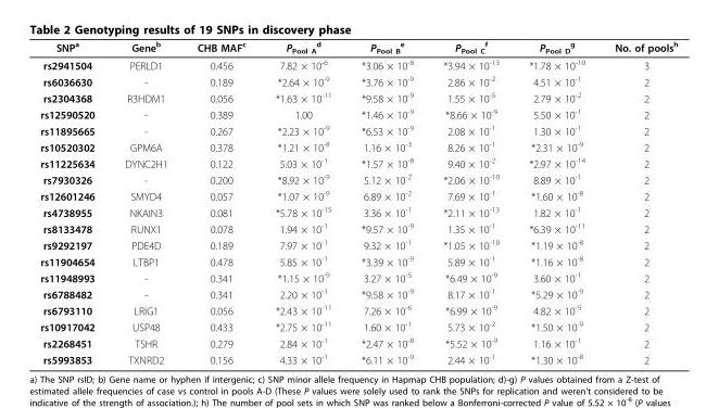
<table><thead><tr><td>SNP<sup>a</sup></td><td>Gene<sup>b</sup></td><td>CHB MAF<sup>c</sup></td><td>P<sub>Pool A</sub> <sup>d</sup></td><td>P<sub>Pool B</sub> <sup>e</sup></td><td>P<sub>Pool C</sub> <sup>f</sup></td><td>P<sub>Pool D</sub> <sup>g</sup></td><td>No. of pools<sup>h</sup></td></tr></thead><tbody><tr><td>rs2941504</td><td>PERLD1</td><td>0.456</td><td>7.82 × 10<sup>-6</sup></td><td>*3.06 × 10<sup>-8</sup></td><td>*3.94 × 10<sup>-13</sup></td><td>*1.78 × 10<sup>-10</sup></td><td>3</td></tr><tr><td>rs6036630</td><td>-</td><td>0.189</td><td>*2.64 × 10<sup>-9</sup></td><td>*3.76 × 10<sup>-9</sup></td><td>2.86 × 10<sup>-2</sup></td><td>4.51 × 10<sup>-1</sup></td><td>2</td></tr><tr><td>rs2304368</td><td>R3HDM1</td><td>0.056</td><td>*1.63 × 10<sup>-11</sup></td><td>*9.58 × 10<sup>-9</sup></td><td>1.55 × 10<sup>-5</sup></td><td>2.79 × 10<sup>-2</sup></td><td>2</td></tr><tr><td>rs12590520</td><td>-</td><td>0.389</td><td>1.00</td><td>*1.46 × 10<sup>-9</sup></td><td>*8.66 × 10<sup>-9</sup></td><td>5.50 × 10<sup>-1</sup></td><td>2</td></tr><tr><td>rs11895665</td><td>-</td><td>0.267</td><td>*2.23 × 10<sup>-9</sup></td><td>*6.53 × 10<sup>-9</sup></td><td>2.08 × 10<sup>-1</sup></td><td>1.30 × 10<sup>-1</sup></td><td>2</td></tr><tr><td>rs10520302</td><td>GPM6A</td><td>0.378</td><td>*1.21 × 10<sup>-8</sup></td><td>1.16 × 10<sup>-3</sup></td><td>8.26 × 10<sup>-1</sup></td><td>*2.31 × 10<sup>-9</sup></td><td>2</td></tr><tr><td>rs11225634</td><td>DYNC2H1</td><td>0.122</td><td>5.03 × 10<sup>-1</sup></td><td>*1.57 × 10<sup>-8</sup></td><td>9.40 × 10<sup>-2</sup></td><td>*2.97 × 10<sup>-14</sup></td><td>2</td></tr><tr><td>rs7930326</td><td>-</td><td>0.200</td><td>*8.92 × 10<sup>-9</sup></td><td>5.12 × 10<sup>-2</sup></td><td>*2.06 × 10<sup>-10</sup></td><td>8.89 × 10<sup>-1</sup></td><td>2</td></tr><tr><td>rs12601246</td><td>SMYD4</td><td>0.057</td><td>*1.07 × 10<sup>-9</sup></td><td>6.89 × 10<sup>-2</sup></td><td>7.69 × 10<sup>-1</sup></td><td>*1.60 × 10<sup>-8</sup></td><td>2</td></tr><tr><td>rs4738955</td><td>NKAIN3</td><td>0.081</td><td>*5.78 × 10<sup>-15</sup></td><td>3.36 × 10<sup>-1</sup></td><td>*2.11 × 10<sup>-13</sup></td><td>1.82 × 10<sup>-1</sup></td><td>2</td></tr><tr><td>rs8133478</td><td>RUNX1</td><td>0.078</td><td>1.94 × 10<sup>-1</sup></td><td>*9.57 × 10<sup>-9</sup></td><td>1.35 × 10<sup>-1</sup></td><td>*6.39 × 10<sup>-11</sup></td><td>2</td></tr><tr><td>rs9292197</td><td>PDE4D</td><td>0.189</td><td>7.97 × 10<sup>-1</sup></td><td>9.32 × 10<sup>-1</sup></td><td>*1.05 × 10<sup>-10</sup></td><td>*1.19 × 10<sup>-8</sup></td><td>2</td></tr><tr><td>rs11904654</td><td>LTBP1</td><td>0.478</td><td>5.85 × 10<sup>-1</sup></td><td>*3.39 × 10<sup>-9</sup></td><td>5.89 × 10<sup>-1</sup></td><td>*1.16 × 10<sup>-8</sup></td><td>2</td></tr><tr><td>rs11948993</td><td>-</td><td>0.341</td><td>*1.15 × 10<sup>-9</sup></td><td>3.27 × 10<sup>-5</sup></td><td>*6.49 × 10<sup>-9</sup></td><td>3.60 × 10<sup>-1</sup></td><td>2</td></tr><tr><td>rs6788482</td><td>-</td><td>0.341</td><td>2.20 × 10<sup>-1</sup></td><td>*9.58 × 10<sup>-9</sup></td><td>8.17 × 10<sup>-1</sup></td><td>*5.29 × 10<sup>-9</sup></td><td>2</td></tr><tr><td>rs6793110</td><td>LRIG1</td><td>0.056</td><td>*2.43 × 10<sup>-11</sup></td><td>7.26 × 10<sup>-6</sup></td><td>*6.99 × 10<sup>-9</sup></td><td>4.82 × 10<sup>-5</sup></td><td>2</td></tr><tr><td>rs10917042</td><td>USP48</td><td>0.433</td><td>*2.75 × 10<sup>-11</sup></td><td>1.60 × 10<sup>-1</sup></td><td>5.73 × 10<sup>-2</sup></td><td>*1.50 × 10<sup>-9</sup></td><td>2</td></tr><tr><td>rs2268451</td><td>TSHR</td><td>0.279</td><td>2.84 × 10<sup>-1</sup></td><td>*2.47 × 10<sup>-8</sup></td><td>*5.52 × 10<sup>-9</sup></td><td>1.16 × 10<sup>-1</sup></td><td>2</td></tr><tr><td>rs5993853</td><td>TXNRD2</td><td>0.156</td><td>4.33 × 10<sup>-1</sup></td><td>*6.11 × 10<sup>-9</sup></td><td>2.44 × 10<sup>-1</sup></td><td>*1.30 × 10<sup>-8</sup></td><td>2</td></tr></tbody></table>